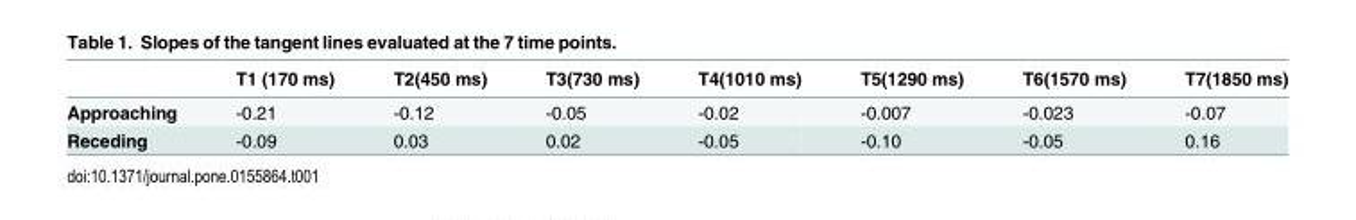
<table><thead><tr><td></td><td>T1 (170 ms)</td><td>T2(450 ms)</td><td>T3(730 ms)</td><td>T4(1010 ms)</td><td>T5(1290 ms)</td><td>T6(1570 ms)</td><td>T7(1850 ms)</td></tr></thead><tbody><tr><td>Approaching</td><td>-0.21</td><td>-0.12</td><td>-0.05</td><td>-0.02</td><td>-0.007</td><td>-0.023</td><td>-0.07</td></tr><tr><td>Receding</td><td>-0.09</td><td>0.03</td><td>0.02</td><td>-0.05</td><td>-0.10</td><td>-0.05</td><td>0.16</td></tr></tbody></table>